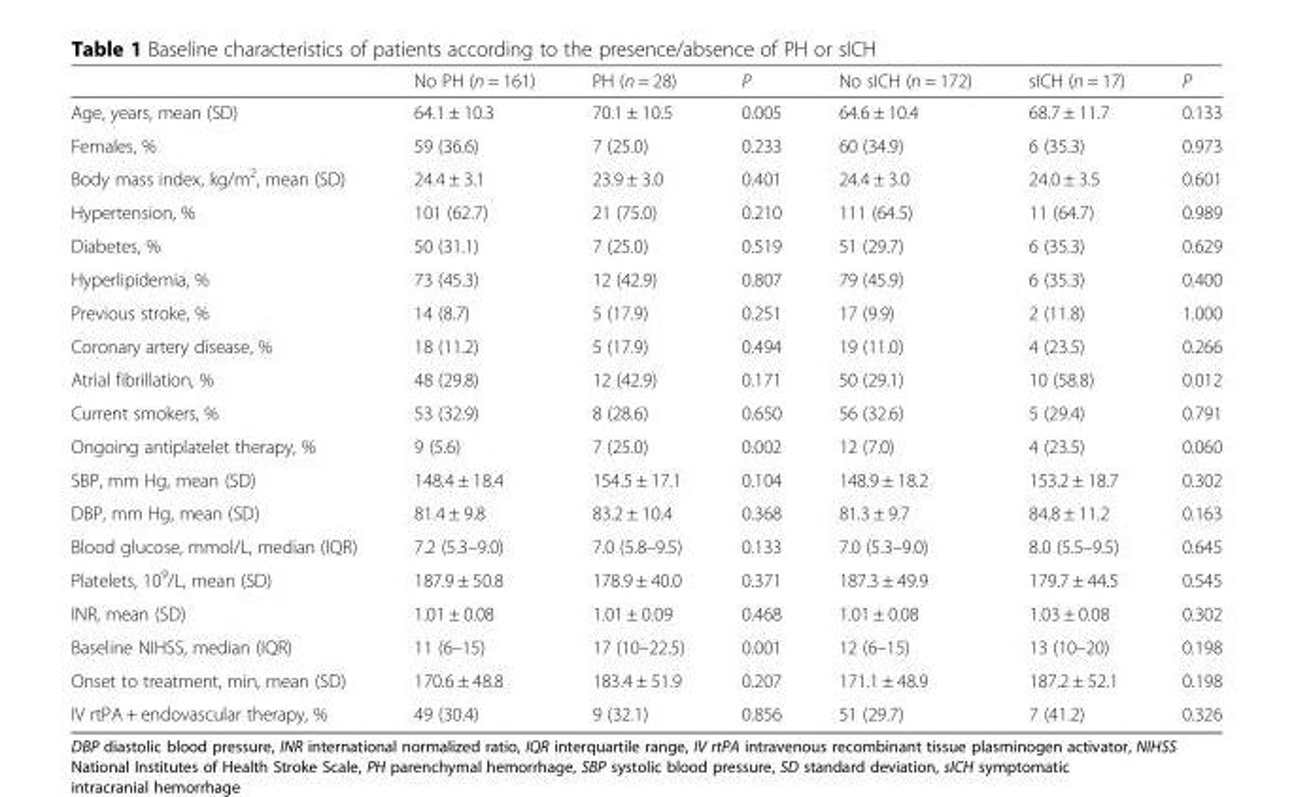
<table><thead><tr><td></td><td>No PH (n = 161)</td><td>PH (n = 28)</td><td>P</td><td>No sICH (n = 172)</td><td>sICH (n = 17)</td><td>P</td></tr></thead><tbody><tr><td>Age, years, mean (SD)</td><td>64.1 ± 10.3</td><td>70.1 ± 10.5</td><td>0.005</td><td>64.6 ± 10.4</td><td>68.7 ± 11.7</td><td>0.133</td></tr><tr><td>Females, %</td><td>59 (36.6)</td><td>7 (25.0)</td><td>0.233</td><td>60 (34.9)</td><td>6 (35.3)</td><td>0.973</td></tr><tr><td>Body mass index, kg/m<sup>2</sup>, mean (SD)</td><td>24.4 ± 3.1</td><td>23.9 ± 3.0</td><td>0.401</td><td>24.4 ± 3.0</td><td>24.0 ± 3.5</td><td>0.601</td></tr><tr><td>Hypertension, %</td><td>101 (62.7)</td><td>21 (75.0)</td><td>0.210</td><td>111 (64.5)</td><td>11 (64.7)</td><td>0.989</td></tr><tr><td>Diabetes, %</td><td>50 (31.1)</td><td>7 (25.0)</td><td>0.519</td><td>51 (29.7)</td><td>6 (35.3)</td><td>0.629</td></tr><tr><td>Hyperlipidemia, %</td><td>73 (45.3)</td><td>12 (42.9)</td><td>0.807</td><td>79 (45.9)</td><td>6 (35.3)</td><td>0.400</td></tr><tr><td>Previous stroke, %</td><td>14 (8.7)</td><td>5 (17.9)</td><td>0.251</td><td>17 (9.9)</td><td>2 (11.8)</td><td>1.000</td></tr><tr><td>Coronary artery disease, %</td><td>18 (11.2)</td><td>5 (17.9)</td><td>0.494</td><td>19 (11.0)</td><td>4 (23.5)</td><td>0.266</td></tr><tr><td>Atrial fibrillation, %</td><td>48 (29.8)</td><td>12 (42.9)</td><td>0.171</td><td>50 (29.1)</td><td>10 (58.8)</td><td>0.012</td></tr><tr><td>Current smokers, %</td><td>53 (32.9)</td><td>8 (28.6)</td><td>0.650</td><td>56 (32.6)</td><td>5 (29.4)</td><td>0.791</td></tr><tr><td>Ongoing antiplatelet therapy, %</td><td>9 (5.6)</td><td>7 (25.0)</td><td>0.002</td><td>12 (7.0)</td><td>4 (23.5)</td><td>0.060</td></tr><tr><td>SBP, mm Hg, mean (SD)</td><td>148.4 ± 18.4</td><td>154.5 ± 17.1</td><td>0.104</td><td>148.9 ± 18.2</td><td>153.2 ± 18.7</td><td>0.302</td></tr><tr><td>DBP, mm Hg, mean (SD)</td><td>81.4 ± 9.8</td><td>83.2 ± 10.4</td><td>0.368</td><td>81.3 ± 9.7</td><td>84.8 ± 11.2</td><td>0.163</td></tr><tr><td>Blood glucose, mmol/L, median (IQR)</td><td>7.2 (5.3–9.0)</td><td>7.0 (5.8–9.5)</td><td>0.133</td><td>7.0 (5.3–9.0)</td><td>8.0 (5.5–9.5)</td><td>0.645</td></tr><tr><td>Platelets, 10<sup>9</sup>/L, mean (SD)</td><td>187.9 ± 50.8</td><td>178.9 ± 40.0</td><td>0.371</td><td>187.3 ± 49.9</td><td>179.7 ± 44.5</td><td>0.545</td></tr><tr><td>INR, mean (SD)</td><td>1.01 ± 0.08</td><td>1.01 ± 0.09</td><td>0.468</td><td>1.01 ± 0.08</td><td>1.03 ± 0.08</td><td>0.302</td></tr><tr><td>Baseline NIHSS, median (IQR)</td><td>11 (6–15)</td><td>17 (10–22.5)</td><td>0.001</td><td>12 (6–15)</td><td>13 (10–20)</td><td>0.198</td></tr><tr><td>Onset to treatment, min, mean (SD)</td><td>170.6 ± 48.8</td><td>183.4 ± 51.9</td><td>0.207</td><td>171.1 ± 48.9</td><td>187.2 ± 52.1</td><td>0.198</td></tr><tr><td>IV rtPA + endovascular therapy, %</td><td>49 (30.4)</td><td>9 (32.1)</td><td>0.856</td><td>51 (29.7)</td><td>7 (41.2)</td><td>0.326</td></tr></tbody></table>